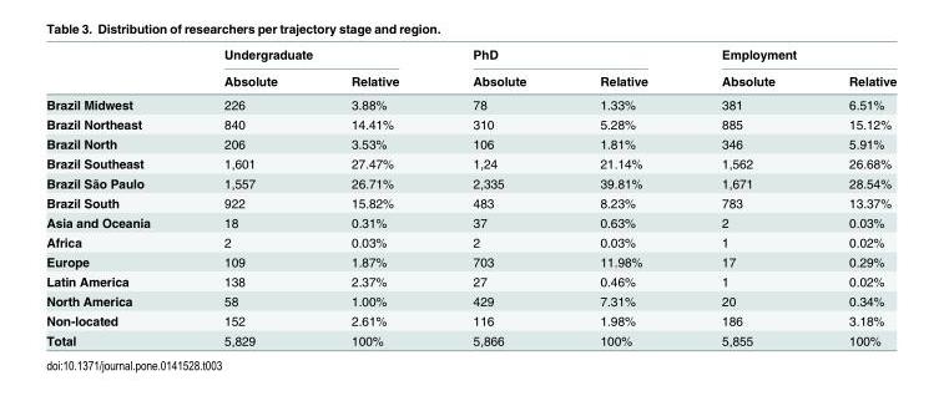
<table><thead><tr><td rowspan="2"></td><td colspan="2">Undergraduate</td><td colspan="2">PhD</td><td colspan="2">Employment</td></tr><tr><td>Absolute</td><td>Relative</td><td>Absolute</td><td>Relative</td><td>Absolute</td><td>Relative</td></tr></thead><tbody><tr><td>Brazil Midwest</td><td>226</td><td>3.88%</td><td>78</td><td>1.33%</td><td>381</td><td>6.51%</td></tr><tr><td>Brazil Northeast</td><td>840</td><td>14.41%</td><td>310</td><td>5.28%</td><td>885</td><td>15.12%</td></tr><tr><td>Brazil North</td><td>206</td><td>3.53%</td><td>106</td><td>1.81%</td><td>346</td><td>5.91%</td></tr><tr><td>Brazil Southeast</td><td>1,601</td><td>27.47%</td><td>1,24</td><td>21.14%</td><td>1,562</td><td>26.68%</td></tr><tr><td>Brazil São Paulo</td><td>1,557</td><td>26.71%</td><td>2,335</td><td>39.81%</td><td>1,671</td><td>28.54%</td></tr><tr><td>Brazil South</td><td>922</td><td>15.82%</td><td>483</td><td>8.23%</td><td>783</td><td>13.37%</td></tr><tr><td>Asia and Oceania</td><td>18</td><td>0.31%</td><td>37</td><td>0.63%</td><td>2</td><td>0.03%</td></tr><tr><td>Africa</td><td>2</td><td>0.03%</td><td>2</td><td>0.03%</td><td>1</td><td>0.02%</td></tr><tr><td>Europe</td><td>109</td><td>1.87%</td><td>703</td><td>11.98%</td><td>17</td><td>0.29%</td></tr><tr><td>Latin America</td><td>138</td><td>2.37%</td><td>27</td><td>0.46%</td><td>1</td><td>0.02%</td></tr><tr><td>North America</td><td>58</td><td>1.00%</td><td>429</td><td>7.31%</td><td>20</td><td>0.34%</td></tr><tr><td>Non-located</td><td>152</td><td>2.61%</td><td>116</td><td>1.98%</td><td>186</td><td>3.18%</td></tr><tr><td>Total</td><td>5,829</td><td>100%</td><td>5,866</td><td>100%</td><td>5,855</td><td>100%</td></tr></tbody></table>